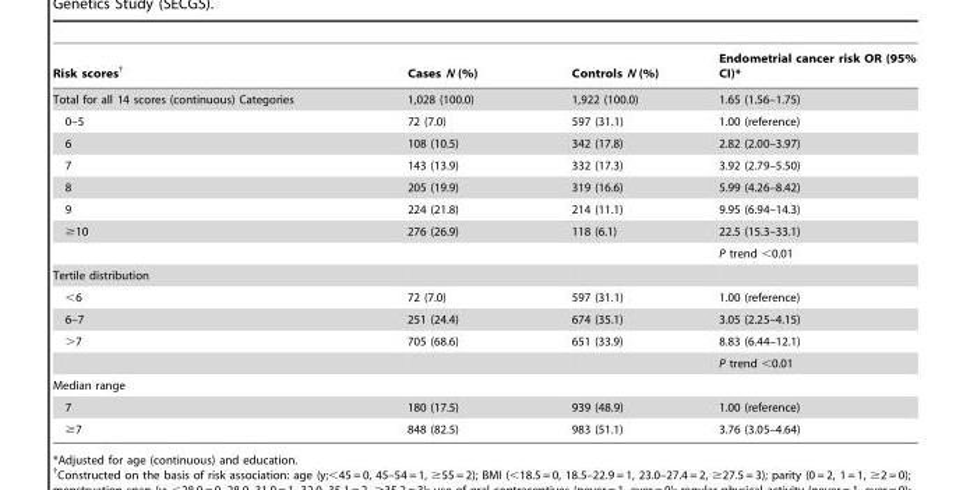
<table><thead><tr><td>Risk scores†</td><td>Cases N (%)</td><td>Controls N (%)</td><td>Endometrial cancer risk OR (95% CI)*</td></tr></thead><tbody><tr><td>Total for all 14 scores (continuous) Categories</td><td>1,028 (100.0)</td><td>1,922 (100.0)</td><td>1.65 (1.56–1.75)</td></tr><tr><td>0–5</td><td>72 (7.0)</td><td>597 (31.1)</td><td>1.00 (reference)</td></tr><tr><td>6</td><td>108 (10.5)</td><td>342 (17.8)</td><td>2.82 (2.00–3.97)</td></tr><tr><td>7</td><td>143 (13.9)</td><td>332 (17.3)</td><td>3.92 (2.79–5.50)</td></tr><tr><td>8</td><td>205 (19.9)</td><td>319 (16.6)</td><td>5.99 (4.26–8.42)</td></tr><tr><td>9</td><td>224 (21.8)</td><td>214 (11.1)</td><td>9.95 (6.94–14.3)</td></tr><tr><td rowspan="2">≥10</td><td>276 (26.9)</td><td>118 (6.1)</td><td>22.5 (15.3–33.1)</td></tr><tr><td></td><td></td><td>P trend &lt;0.01</td></tr><tr><td colspan="4">Tertile distribution</td></tr><tr><td>&lt;6</td><td>72 (7.0)</td><td>597 (31.1)</td><td>1.00 (reference)</td></tr><tr><td>6–7</td><td>251 (24.4)</td><td>674 (35.1)</td><td>3.05 (2.25–4.15)</td></tr><tr><td rowspan="2">&gt;7</td><td>705 (68.6)</td><td>651 (33.9)</td><td>8.83 (6.44–12.1)</td></tr><tr><td></td><td></td><td>P trend &lt;0.01</td></tr><tr><td colspan="4">Median range</td></tr><tr><td>7</td><td>180 (17.5)</td><td>939 (48.9)</td><td>1.00 (reference)</td></tr><tr><td>≥7</td><td>848 (82.5)</td><td>983 (51.1)</td><td>3.76 (3.05–4.64)</td></tr></tbody></table>